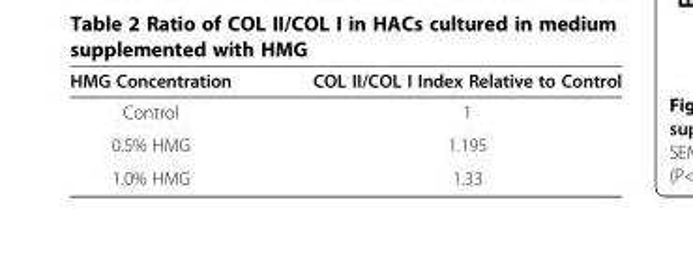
<table><thead><tr><td>HMG Concentration</td><td>COL II/COL I Index Relative to Control</td></tr></thead><tbody><tr><td>Control</td><td>1</td></tr><tr><td>0.5% HMG</td><td>1.195</td></tr><tr><td>1.0% HMG</td><td>1.33</td></tr></tbody></table>